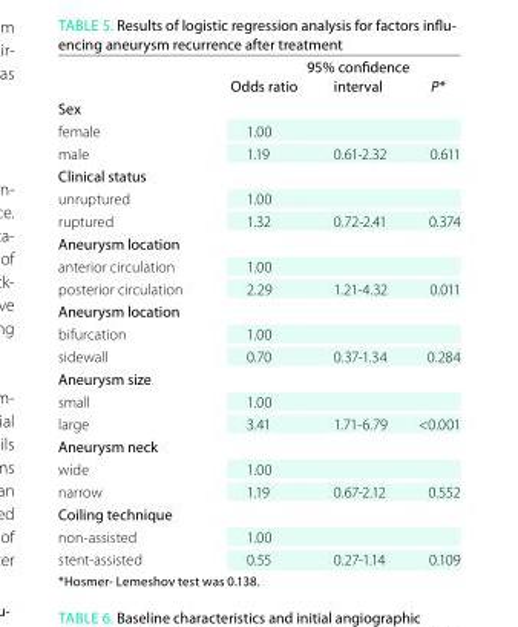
<table><thead><tr><td></td><td>Odds ratio</td><td>95% confidence interval</td><td>P*</td></tr></thead><tbody><tr><td colspan="4">sex</td></tr><tr><td>female</td><td>1.00</td><td></td><td></td></tr><tr><td>male</td><td>1.19</td><td>0.61-2.32</td><td>0.611</td></tr><tr><td colspan="4">Clinical status</td></tr><tr><td>unruptured</td><td>1.00</td><td></td><td></td></tr><tr><td>ruptured</td><td>1.32</td><td>0.72-2.41</td><td>0.374</td></tr><tr><td colspan="4">aneurysm location</td></tr><tr><td>anterior circulation</td><td>1.00</td><td></td><td></td></tr><tr><td>posterior circulation</td><td>2.29</td><td>1.21-4.32</td><td>0.011</td></tr><tr><td colspan="4">aneurysm location</td></tr><tr><td>bifurcation</td><td>1.00</td><td></td><td></td></tr><tr><td>sidewall</td><td>0.70</td><td>0.37-1.34</td><td>0.284</td></tr><tr><td colspan="4">aneurysm size</td></tr><tr><td>small</td><td>1.00</td><td></td><td></td></tr><tr><td>large</td><td>3.41</td><td>1.71-6.79</td><td>&lt;0.001</td></tr><tr><td colspan="4">aneurysm neck</td></tr><tr><td>wide</td><td>1.00</td><td></td><td></td></tr><tr><td>narrow</td><td>1.19</td><td>0.67-2.12</td><td>0.552</td></tr><tr><td colspan="4">Coiling technique</td></tr><tr><td>non-assisted</td><td>1.00</td><td></td><td></td></tr><tr><td>stent-assisted</td><td>0.55</td><td>0.27-1.14</td><td>0.109</td></tr></tbody></table>